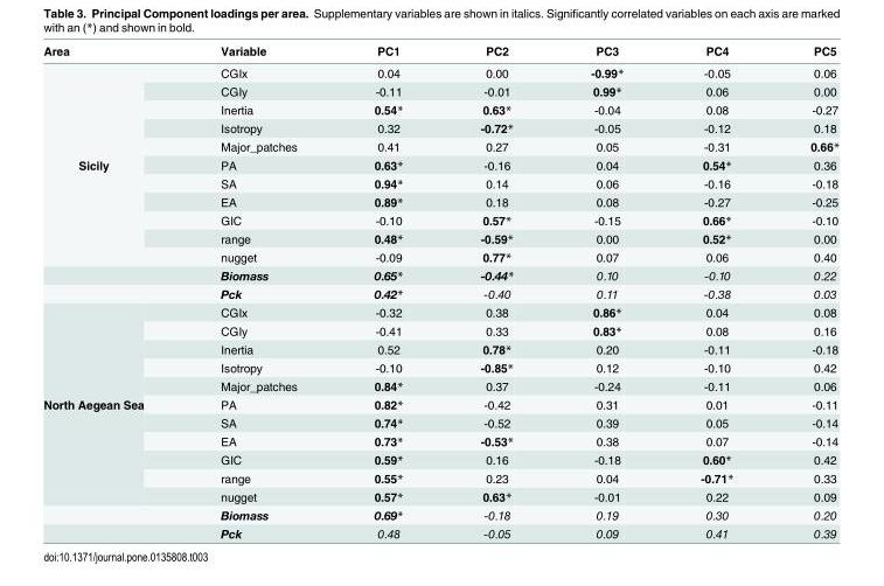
<table><thead><tr><td>Area</td><td>Variable</td><td>PC1</td><td>PC2</td><td>PC3</td><td>PC4</td><td>PC5</td></tr></thead><tbody><tr><td rowspan="13">Sicily</td><td>CGIx</td><td>0.04</td><td>0.00</td><td>-0.99*</td><td>-0.05</td><td>0.06</td></tr><tr><td>CGIy</td><td>-0.11</td><td>-0.01</td><td>0.99*</td><td>0.06</td><td>0.00</td></tr><tr><td>Inertia</td><td>0.54*</td><td>0.63*</td><td>-0.04</td><td>0.08</td><td>-0.27</td></tr><tr><td>Isotropy</td><td>0.32</td><td>-0.72*</td><td>-0.05</td><td>-0.12</td><td>0.18</td></tr><tr><td>Major_patches</td><td>0.41</td><td>0.27</td><td>0.05</td><td>-0.31</td><td>0.66*</td></tr><tr><td>PA</td><td>0.63*</td><td>-0.16</td><td>0.04</td><td>0.54*</td><td>0.36</td></tr><tr><td>SA</td><td>0.94*</td><td>0.14</td><td>0.06</td><td>-0.16</td><td>-0.18</td></tr><tr><td>EA</td><td>0.89*</td><td>0.18</td><td>0.08</td><td>-0.27</td><td>-0.25</td></tr><tr><td>GIC</td><td>-0.10</td><td>0.57*</td><td>-0.15</td><td>0.66*</td><td>-0.10</td></tr><tr><td>range</td><td>0.48*</td><td>-0.59*</td><td>0.00</td><td>0.52*</td><td>0.00</td></tr><tr><td>nugget</td><td>-0.09</td><td>0.77*</td><td>0.07</td><td>0.06</td><td>0.40</td></tr><tr><td>Biomass</td><td>0.65*</td><td>-0.44*</td><td>0.10</td><td>-0.10</td><td>0.22</td></tr><tr><td>Pck</td><td>0.42*</td><td>-0.40</td><td>0.11</td><td>-0.38</td><td>0.03</td></tr><tr><td rowspan="13">North Aegean Sea</td><td>CGIx</td><td>-0.32</td><td>0.38</td><td>0.86*</td><td>0.04</td><td>0.08</td></tr><tr><td>CGIy</td><td>-0.41</td><td>0.33</td><td>0.83*</td><td>0.08</td><td>0.16</td></tr><tr><td>Inertia</td><td>0.52</td><td>0.78*</td><td>0.20</td><td>-0.11</td><td>-0.18</td></tr><tr><td>Isotropy</td><td>-0.10</td><td>-0.85*</td><td>0.12</td><td>-0.10</td><td>0.42</td></tr><tr><td>Major_patches</td><td>0.84*</td><td>0.37</td><td>-0.24</td><td>-0.11</td><td>0.06</td></tr><tr><td>PA</td><td>0.82*</td><td>-0.42</td><td>0.31</td><td>0.01</td><td>-0.11</td></tr><tr><td>SA</td><td>0.74*</td><td>-0.52</td><td>0.39</td><td>0.05</td><td>-0.14</td></tr><tr><td>EA</td><td>0.73*</td><td>-0.53*</td><td>0.38</td><td>0.07</td><td>-0.14</td></tr><tr><td>GIC</td><td>0.59*</td><td>0.16</td><td>-0.18</td><td>0.60*</td><td>0.42</td></tr><tr><td>range</td><td>0.55*</td><td>0.23</td><td>0.04</td><td>-0.71*</td><td>0.33</td></tr><tr><td>nugget</td><td>0.57*</td><td>0.63*</td><td>-0.01</td><td>0.22</td><td>0.09</td></tr><tr><td>Biomass</td><td>0.69*</td><td>-0.18</td><td>0.19</td><td>0.30</td><td>0.20</td></tr><tr><td>Pck</td><td>0.48</td><td>-0.05</td><td>0.09</td><td>0.41</td><td>0.39</td></tr></tbody></table>